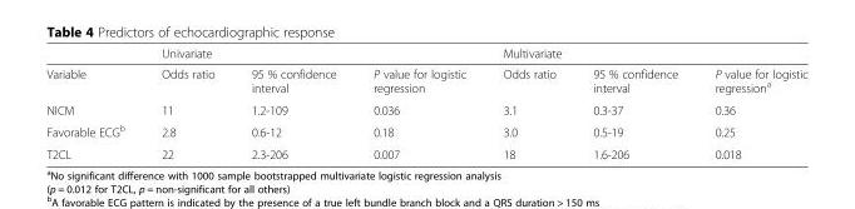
<table><thead><tr><td rowspan="2">Variable</td><td colspan="3">Univariate</td><td colspan="3">Multivariate</td></tr><tr><td>Odds ratio</td><td>95 % confidence interval</td><td>P value for logistic regression</td><td>Odds ratio</td><td>95 % confidence interval</td><td>P value for logistic regression<sup>a</sup></td></tr></thead><tbody><tr><td>NICM</td><td>11</td><td>1.2-109</td><td>0.036</td><td>3.1</td><td>0.3-37</td><td>0.36</td></tr><tr><td>Favorable ECG<sup>b</sup></td><td>2.8</td><td>0.6-12</td><td>0.18</td><td>3.0</td><td>0.5-19</td><td>0.25</td></tr><tr><td>T2CL</td><td>22</td><td>2.3-206</td><td>0.007</td><td>18</td><td>1.6-206</td><td>0.018</td></tr></tbody></table>